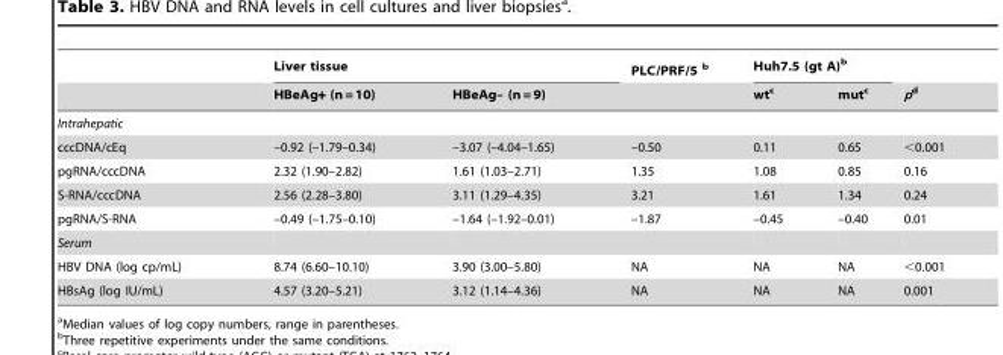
<table><thead><tr><td rowspan="2"></td><td colspan="2">Liver tissue</td><td rowspan="2">PLC/PRF/5 b</td><td colspan="2">Huh7.5 (gt A)<sup>b</sup></td><td rowspan="2">pd</td></tr><tr><td>HBeAg+ (n = 10)</td><td>HBeAg– (n = 9)</td><td>wt<sup>c</sup></td><td>mut<sup>c</sup></td></tr></thead><tbody><tr><td colspan="7">Intrahepatic</td></tr><tr><td>cccDNA/cEq</td><td>–0.92 (–1.79–0.34)</td><td>–3.07 (–4.04–1.65)</td><td>–0.50</td><td>0.11</td><td>0.65</td><td>&lt;0.001</td></tr><tr><td>pgRNA/cccDNA</td><td>2.32 (1.90–2.82)</td><td>1.61 (1.03–2.71)</td><td>1.35</td><td>1.08</td><td>0.85</td><td>0.16</td></tr><tr><td>S-RNA/cccDNA</td><td>2.56 (2.28–3.80)</td><td>3.11 (1.29–4.35)</td><td>3.21</td><td>1.61</td><td>1.34</td><td>0.24</td></tr><tr><td>pgRNA/S-RNA</td><td>–0.49 (–1.75–0.10)</td><td>–1.64 (–1.92–0.01)</td><td>–1.87</td><td>–0.45</td><td>–0.40</td><td>0.01</td></tr><tr><td colspan="7">Serum</td></tr><tr><td>HBV DNA (log cp/mL)</td><td>8.74 (6.60–10.10)</td><td>3.90 (3.00–5.80)</td><td>NA</td><td>NA</td><td>NA</td><td>&lt;0.001</td></tr><tr><td>HBsAg (log IU/mL)</td><td>4.57 (3.20–5.21)</td><td>3.12 (1.14–4.36)</td><td>NA</td><td>NA</td><td>NA</td><td>0.001</td></tr></tbody></table>